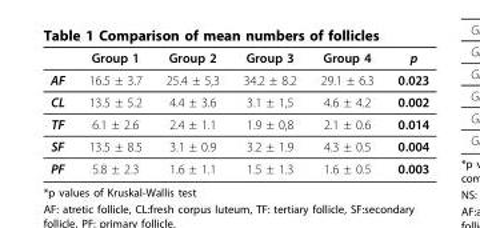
<table><thead><tr><td></td><td>Group 1</td><td>Group 2</td><td>Group 3</td><td>Group 4</td><td>p</td></tr></thead><tbody><tr><td>AF</td><td>16.5 ± 3.7</td><td>25.4 ± 5,3</td><td>34.2 ± 8.2</td><td>29.1 ± 6.3</td><td>0.023</td></tr><tr><td>CL</td><td>13.5 ± 5.2</td><td>4.4 ± 3.6</td><td>3.1 ± 1,5</td><td>4.6 ± 4.2</td><td>0.002</td></tr><tr><td>TF</td><td>6.1 ± 2.6</td><td>2.4 ± 1.1</td><td>1.9 ± 0,8</td><td>2.1 ± 0.6</td><td>0.014</td></tr><tr><td>SF</td><td>13.5 ± 8.5</td><td>3.1 ± 0.9</td><td>3.2 ± 1.9</td><td>4.3 ± 0.5</td><td>0.004</td></tr><tr><td>PF</td><td>5.8 ± 2.3</td><td>1.6 ± 1.1</td><td>1.5 ± 1.3</td><td>1.6 ± 0.5</td><td>0.003</td></tr></tbody></table>